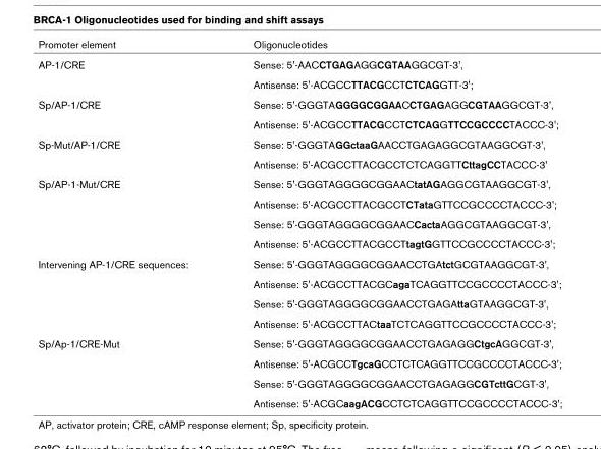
<table><thead><tr><td>Promoter element</td><td>Oligonucleotides</td></tr></thead><tbody><tr><td rowspan="2">AP-1/CRE</td><td>Sense: 5&#x27;-AACCTGAGAGGCGTAAGGCGT-3&#x27;,</td></tr><tr><td>Antisense: 5&#x27;-ACGCCTTACGCCTCTCAGGTT-3&#x27;;</td></tr><tr><td rowspan="2">Sp/AP-1/CRE</td><td>Sense: 5&#x27;-GGGTAGGGGCGGAACCTGAGAGGCGTAAGGCGT-3&#x27;,</td></tr><tr><td>Antisense: 5&#x27;-ACGCCTTACGCCTCTCAGGTTCCGCCCCTACCC-3&#x27;;</td></tr><tr><td rowspan="2">Sp-Mut/AP-1/CRE</td><td>Sense: 5&#x27;-GGGTAGGctaaGAACCTGAGAGGCGTAAGGCGT-3&#x27;,</td></tr><tr><td>Antisense: 5&#x27;-ACGCCTTACGCCTCTCAGGTTCttagCCTACCC-3&#x27;</td></tr><tr><td rowspan="4">Sp/AP-1-Mut/CRE</td><td>Sense: 5&#x27;-GGGTAGGGGCGGAACtatAGAGGCGTAAGGCGT-3&#x27;,</td></tr><tr><td>Antisense: 5&#x27;-ACGCCTTACGCCTCTataGTTCCGCCCCTACCC-3&#x27;;</td></tr><tr><td>Sense: 5&#x27;-GGGTAGGGGCGGAACCactaAGGCGTAAGGCGT-3&#x27;,</td></tr><tr><td>Antisense: 5&#x27;-ACGCCTTACGCCTtagtGGTTCCGCCCCTACCC-3&#x27;;</td></tr><tr><td rowspan="4">Intervening AP-1/CRE sequences:</td><td>Sense: 5&#x27;-GGGTAGGGGCGGAACCTGAtctGCGTAAGGCGT-3&#x27;,</td></tr><tr><td>Antisense: 5&#x27;-ACGCCTTACGCagaTCAGGTTCCGCCCCTACCC-3&#x27;;</td></tr><tr><td>Sense: 5&#x27;-GGGTAGGGGCGGAACCTGAGAttaGTAAGGCGT-3&#x27;,</td></tr><tr><td>Antisense: 5&#x27;-ACGCCTTACtaaTCTCAGGTTCCGCCCCTACCC-3&#x27;;</td></tr><tr><td rowspan="4">Sp/Ap-1/CRE-Mut</td><td>Sense: 5&#x27;-GGGTAGGGGCGGAACCTGAGAGGCtgcAGGCGT-3&#x27;,</td></tr><tr><td>Antisense: 5&#x27;-ACGCCTgcaGCCTCTCAGGTTCCGCCCCTACCC-3&#x27;;</td></tr><tr><td>Sense: 5&#x27;-GGGTAGGGGCGGAACCTGAGAGGCGTcttGCGT-3&#x27;,</td></tr><tr><td>Antisense: 5&#x27;-ACGCaagACGCCTCTCAGGTTCCGCCCCTACCC-3&#x27;;</td></tr></tbody></table>